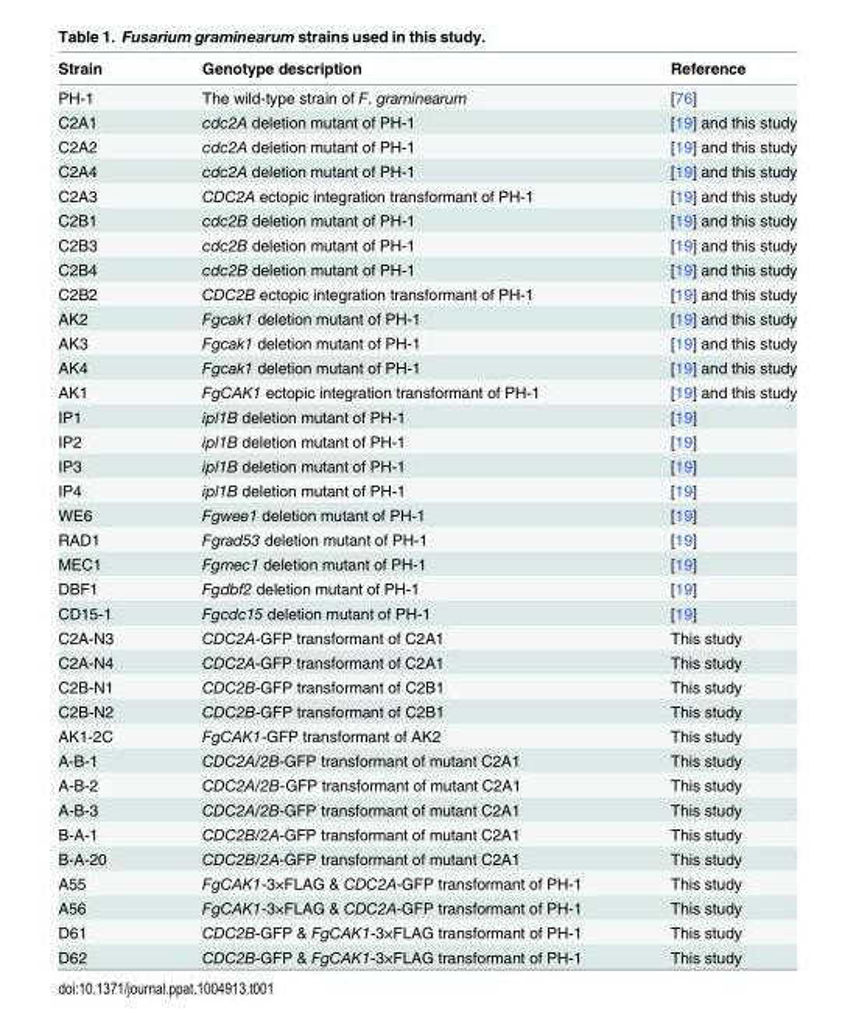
<table><thead><tr><td>Strain</td><td>Genotype description</td><td>Reference</td></tr></thead><tbody><tr><td>PH-1</td><td>The wild-type strain of F. graminearum</td><td>[76]</td></tr><tr><td>C2A1</td><td>cdc2A deletion mutant of PH-1</td><td>[19] and this study</td></tr><tr><td>C2A2</td><td>cdc2A deletion mutant of PH-1</td><td>[19] and this study</td></tr><tr><td>C2A4</td><td>cdc2A deletion mutant of PH-1</td><td>[19] and this study</td></tr><tr><td>C2A3</td><td>CDC2A ectopic integration transformant of PH-1</td><td>[19] and this study</td></tr><tr><td>C2B1</td><td>cdc2B deletion mutant of PH-1</td><td>[19] and this study</td></tr><tr><td>C2B3</td><td>cdc2B deletion mutant of PH-1</td><td>[19] and this study</td></tr><tr><td>C2B4</td><td>cdc2B deletion mutant of PH-1</td><td>[19] and this study</td></tr><tr><td>C2B2</td><td>CDC2B ectopic integration transformant of PH-1</td><td>[19] and this study</td></tr><tr><td>AK2</td><td>Fgcak1 deletion mutant of PH-1</td><td>[19] and this study</td></tr><tr><td>AK3</td><td>Fgcak1 deletion mutant of PH-1</td><td>[19] and this study</td></tr><tr><td>AK4</td><td>Fgcak1 deletion mutant of PH-1</td><td>[19] and this study</td></tr><tr><td>AK1</td><td>FgCAK1 ectopic integration transformant of PH-1</td><td>[19] and this study</td></tr><tr><td>IP1</td><td>ipl1B deletion mutant of PH-1</td><td>[19]</td></tr><tr><td>IP2</td><td>ipl1B deletion mutant of PH-1</td><td>[19]</td></tr><tr><td>IP3</td><td>ipl1B deletion mutant of PH-1</td><td>[19]</td></tr><tr><td>IP4</td><td>ipl1B deletion mutant of PH-1</td><td>[19]</td></tr><tr><td>WE6</td><td>Fgwee1 deletion mutant of PH-1</td><td>[19]</td></tr><tr><td>RAD1</td><td>Fgrad53 deletion mutant of PH-1</td><td>[19]</td></tr><tr><td>MEC1</td><td>Fgmec1 deletion mutant of PH-1</td><td>[19]</td></tr><tr><td>DBF1</td><td>Fgdbf2 deletion mutant of PH-1</td><td>[19]</td></tr><tr><td>CD15-1</td><td>Fgcdc15 deletion mutant of PH-1</td><td>[19]</td></tr><tr><td>C2A-N3</td><td>CDC2A-GFP transformant of C2A1</td><td>This study</td></tr><tr><td>C2A-N4</td><td>CDC2A-GFP transformant of C2A1</td><td>This study</td></tr><tr><td>C2B-N1</td><td>CDC2B-GFP transformant of C2B1</td><td>This study</td></tr><tr><td>C2B-N2</td><td>CDC2B-GFP transformant of C2B1</td><td>This study</td></tr><tr><td>AK1-2C</td><td>FgCAK1-GFP transformant of AK2</td><td>This study</td></tr><tr><td>A-B-1</td><td>CDC2A/2B-GFP transformant of mutant C2A1</td><td>This study</td></tr><tr><td>A-B-2</td><td>CDC2A/2B-GFP transformant of mutant C2A1</td><td>This study</td></tr><tr><td>A-B-3</td><td>CDC2A/2B-GFP transformant of mutant C2A1</td><td>This study</td></tr><tr><td>B-A-1</td><td>CDC2B/2A-GFP transformant of mutant C2A1</td><td>This study</td></tr><tr><td>B-A-20</td><td>CDC2B/2A-GFP transformant of mutant C2A1</td><td>This study</td></tr><tr><td>A55</td><td>FgCAK1-3×FLAG &amp; CDC2A-GFP transformant of PH-1</td><td>This study</td></tr><tr><td>A56</td><td>FgCAK1-3×FLAG &amp; CDC2A-GFP transformant of PH-1</td><td>This study</td></tr><tr><td>D61</td><td>CDC2B-GFP &amp; FgCAK1-3×FLAG transformant of PH-1</td><td>This study</td></tr><tr><td>D62</td><td>CDC2B-GFP &amp; FgCAK1-3×FLAG transformant of PH-1</td><td>This study</td></tr></tbody></table>